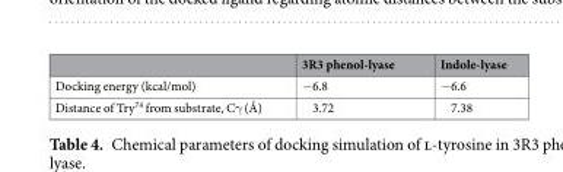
<table><thead><tr><td></td><td>3R3 phenol-lyase</td><td>Indole-lyase</td></tr></thead><tbody><tr><td>Docking energy (kcal/mol)</td><td>−6.8</td><td>−6.6</td></tr><tr><td>Distance of Try<sup>74</sup> from substrate, Cγ (Å)</td><td>3.72</td><td>7.38</td></tr></tbody></table>